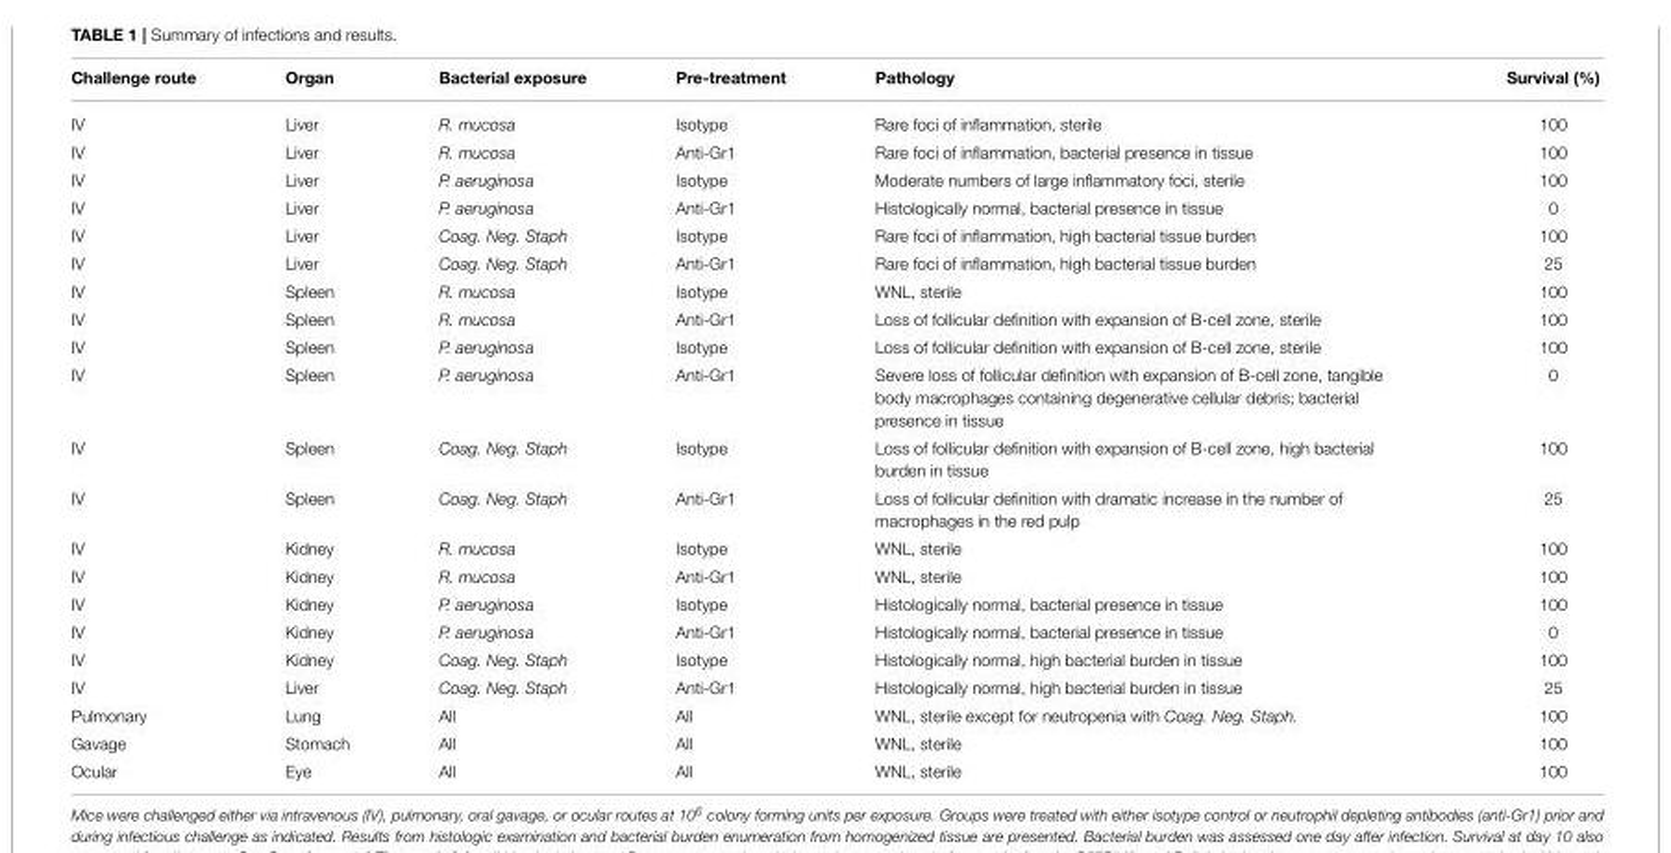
<table><thead><tr><td>Challenge route</td><td>Organ</td><td>Bacterial exposure</td><td>Pre-treatment</td><td>Pathology</td><td>Survival (%)</td></tr></thead><tbody><tr><td>IV</td><td>Liver</td><td>R. mucosa</td><td>Isotype</td><td>Rare foci of inflammation, sterile</td><td>100</td></tr><tr><td>IV</td><td>Liver</td><td>R. mucosa</td><td>Anti-Gr1</td><td>Rare foci of inflammation, bacterial presence in tissue</td><td>100</td></tr><tr><td>IV</td><td>Liver</td><td>P. aeruginosa</td><td>Isotype</td><td>Moderate numbers of large inflammatory foci, sterile</td><td>100</td></tr><tr><td>IV</td><td>Liver</td><td>P. aeruginosa</td><td>Anti-Gr1</td><td>Histologically normal, bacterial presence in tissue</td><td>0</td></tr><tr><td>IV</td><td>Liver</td><td>Coag. Neg. Staph</td><td>Isotype</td><td>Rare foci of inflammation, high bacterial tissue burden</td><td>100</td></tr><tr><td>IV</td><td>Liver</td><td>Coag. Neg. Staph</td><td>Anti-Gr1</td><td>Rare foci of inflammation, high bacterial tissue burden</td><td>25</td></tr><tr><td>IV</td><td>Spleen</td><td>R. mucosa</td><td>Isotype</td><td>WNL, sterile</td><td>100</td></tr><tr><td>IV</td><td>Spleen</td><td>R. mucosa</td><td>Anti-Gr1</td><td>Loss of follicular definition with expansion of B-cell zone, sterile</td><td>100</td></tr><tr><td>IV</td><td>Spleen</td><td>P. aeruginosa</td><td>Isotype</td><td>Loss of follicular definition with expansion of B-cell zone, sterile</td><td>100</td></tr><tr><td>IV</td><td>Spleen</td><td>P. aeruginosa</td><td>Anti-Gr1</td><td>Severe loss of follicular definition with expansion of B-cell zone, tangible body macrophages containing degenerative cellular debris; bacterial presence in tissue</td><td>0</td></tr><tr><td>IV</td><td>Spleen</td><td>Coag. Neg. Staph</td><td>Isotype</td><td>Loss of follicular definition with expansion of B-cell zone, high bacterial burden in tissue</td><td>100</td></tr><tr><td>IV</td><td>Spleen</td><td>Coag. Neg. Staph</td><td>Anti-Gr1</td><td>Loss of follicular definition with dramatic increase in the number of macrophages in the red pulp</td><td>25</td></tr><tr><td>IV</td><td>Kidney</td><td>R. mucosa</td><td>Isotype</td><td>WNL, sterile</td><td>100</td></tr><tr><td>IV</td><td>Kidney</td><td>R. mucosa</td><td>Anti-Gr1</td><td>WNL, sterile</td><td>100</td></tr><tr><td>IV</td><td>Kidney</td><td>P. aeruginosa</td><td>Isotype</td><td>Histologically normal, bacterial presence in tissue</td><td>100</td></tr><tr><td>IV</td><td>Kidney</td><td>P. aeruginosa</td><td>Anti-Gr1</td><td>Histologically normal, bacterial presence in tissue</td><td>0</td></tr><tr><td>IV</td><td>Kidney</td><td>Coag. Neg. Staph</td><td>Isotype</td><td>Histologically normal, high bacterial burden in tissue</td><td>100</td></tr><tr><td>IV</td><td>Liver</td><td>Coag. Neg. Staph</td><td>Anti-Gr1</td><td>Histologically normal, high bacterial burden in tissue</td><td>25</td></tr><tr><td>Pulmonary</td><td>Lung</td><td>All</td><td>All</td><td>WNL, sterile except for neutropenia with Coag. Neg. Staph.</td><td>100</td></tr><tr><td>Gavage</td><td>Stomach</td><td>All</td><td>All</td><td>WNL, sterile</td><td>100</td></tr><tr><td>Ocular</td><td>Eye</td><td>All</td><td>All</td><td>WNL, sterile</td><td>100</td></tr></tbody></table>